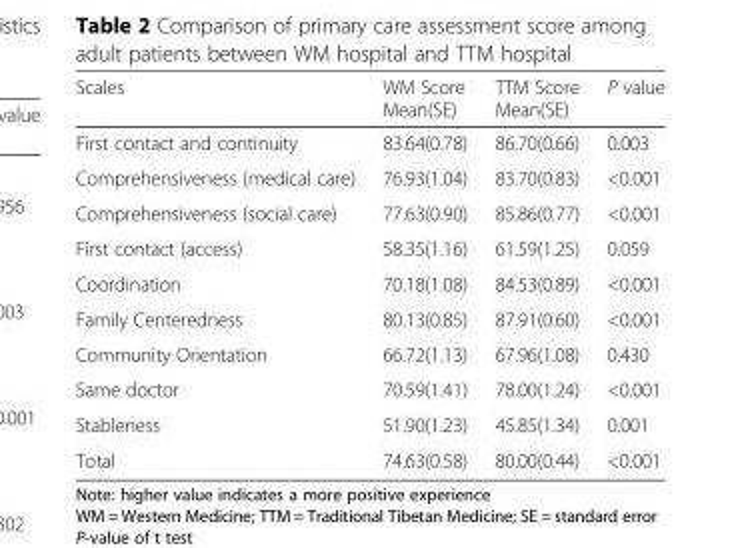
<table><thead><tr><td>Scales</td><td>WM Score Mean(SE)</td><td>TTM Score Mean(SE)</td><td>P value</td></tr></thead><tbody><tr><td>First contact and continuity</td><td>83.64(0.78)</td><td>86.70(0.66)</td><td>0.003</td></tr><tr><td>Comprehensiveness (medical care)</td><td>76.93(1.04)</td><td>83.70(0.83)</td><td>&lt;0.001</td></tr><tr><td>Comprehensiveness (social care)</td><td>77.63(0.90)</td><td>85.86(0.77)</td><td>&lt;0.001</td></tr><tr><td>First contact (access)</td><td>58.35(1.16)</td><td>61.59(1.25)</td><td>0.059</td></tr><tr><td>Coordination</td><td>70.18(1.08)</td><td>84.53(0.89)</td><td>&lt;0.001</td></tr><tr><td>Family Centeredness</td><td>80.13(0.85)</td><td>87.91(0.60)</td><td>&lt;0.001</td></tr><tr><td>Community Orientation</td><td>66.72(1.13)</td><td>67.96(1.08)</td><td>0.430</td></tr><tr><td>Same doctor</td><td>70.59(1.41)</td><td>78.00(1.24)</td><td>&lt;0.001</td></tr><tr><td>Stableness</td><td>51.90(1.23)</td><td>45.85(1.34)</td><td>0.001</td></tr><tr><td>Total</td><td>74.63(0.58)</td><td>80.00(0.44)</td><td>&lt;0.001</td></tr></tbody></table>